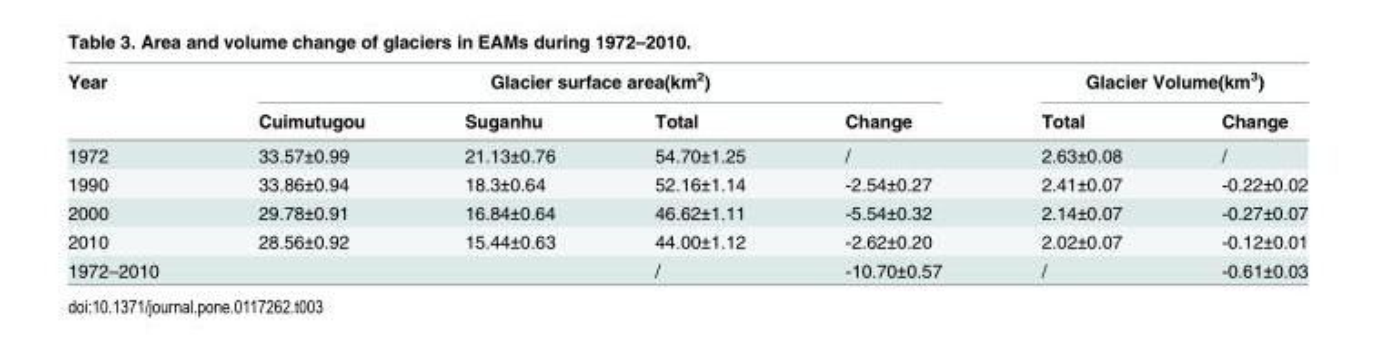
<table><thead><tr><td rowspan="2">Year</td><td colspan="4">Glacier surface area(km<sup>2</sup>)</td><td colspan="2">Glacier Volume(km<sup>3</sup>)</td></tr><tr><td>Cuimutugou</td><td>Suganhu</td><td>Total</td><td>Change</td><td>Total</td><td>Change</td></tr></thead><tbody><tr><td>1972</td><td>33.57±0.99</td><td>21.13±0.76</td><td>54.70±1.25</td><td>/</td><td>2.63±0.08</td><td>/</td></tr><tr><td>1990</td><td>33.86±0.94</td><td>18.3±0.64</td><td>52.16±1.14</td><td>-2.54±0.27</td><td>2.41±0.07</td><td>-0.22±0.02</td></tr><tr><td>2000</td><td>29.78±0.91</td><td>16.84±0.64</td><td>46.62±1.11</td><td>-5.54±0.32</td><td>2.14±0.07</td><td>-0.27±0.07</td></tr><tr><td>2010</td><td>28.56±0.92</td><td>15.44±0.63</td><td>44.00±1.12</td><td>-2.62±0.20</td><td>2.02±0.07</td><td>-0.12±0.01</td></tr><tr><td>1972–2010</td><td></td><td></td><td>/</td><td>-10.70±0.57</td><td>/</td><td>-0.61±0.03</td></tr></tbody></table>